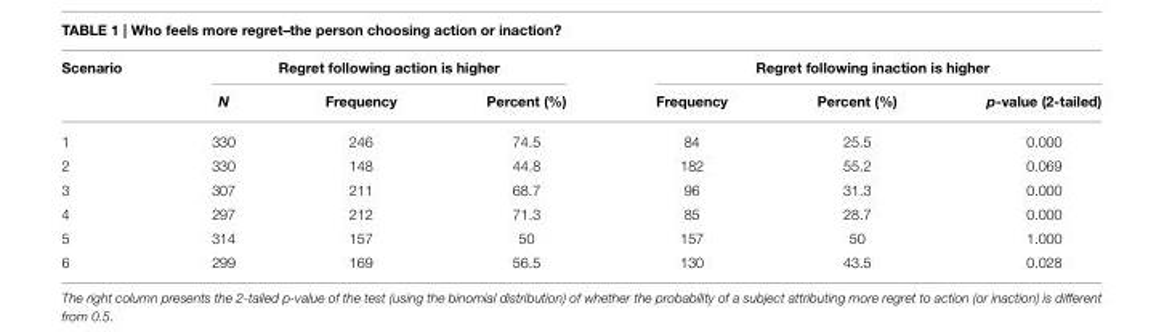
<table><thead><tr><td rowspan="2">Scenario</td><td colspan="3">Regret following action is higher</td><td colspan="3">Regret following inaction is higher</td></tr><tr><td>N</td><td>Frequency</td><td>Percent (%)</td><td>Frequency</td><td>Percent (%)</td><td>p-value (2-tailed)</td></tr></thead><tbody><tr><td>1</td><td>330</td><td>246</td><td>74.5</td><td>84</td><td>25.5</td><td>0.000</td></tr><tr><td>2</td><td>330</td><td>148</td><td>44.8</td><td>182</td><td>55.2</td><td>0.069</td></tr><tr><td>3</td><td>307</td><td>211</td><td>68.7</td><td>96</td><td>31.3</td><td>0.000</td></tr><tr><td>4</td><td>297</td><td>212</td><td>71.3</td><td>85</td><td>28.7</td><td>0.000</td></tr><tr><td>5</td><td>314</td><td>157</td><td>50</td><td>157</td><td>50</td><td>1.000</td></tr><tr><td>6</td><td>299</td><td>169</td><td>56.5</td><td>130</td><td>43.5</td><td>0.028</td></tr></tbody></table>